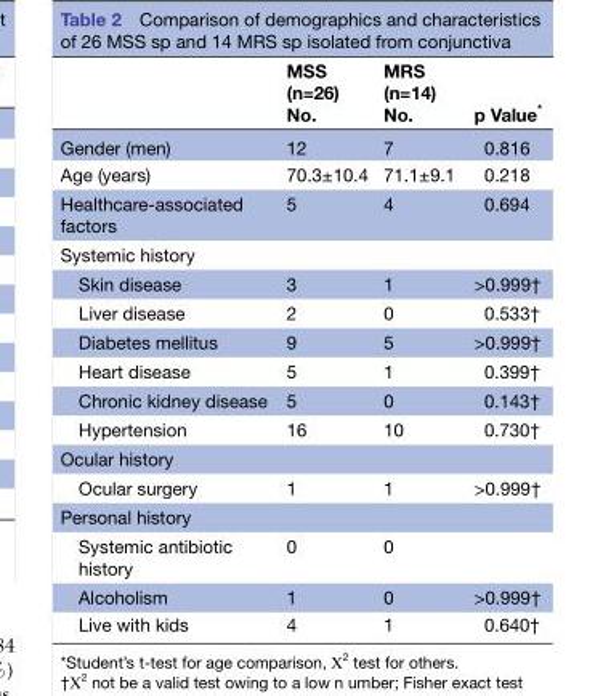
<table><thead><tr><td></td><td>MSS (n=26) No.</td><td>MRS (n=14) No.</td><td>p Value*</td></tr></thead><tbody><tr><td>Gender (men)</td><td>12</td><td>7</td><td>0.816</td></tr><tr><td>Age (years)</td><td>70.3±10.4</td><td>71.1±9.1</td><td>0.218</td></tr><tr><td>Healthcare-associated factors</td><td>5</td><td>4</td><td>0.694</td></tr><tr><td colspan="4">Systemic history</td></tr><tr><td>Skin disease</td><td>3</td><td>1</td><td>&gt;0.999†</td></tr><tr><td>Liver disease</td><td>2</td><td>0</td><td>0.533†</td></tr><tr><td>Diabetes mellitus</td><td>9</td><td>5</td><td>&gt;0.999†</td></tr><tr><td>Heart disease</td><td>5</td><td>1</td><td>0.399†</td></tr><tr><td>Chronic kidney disease</td><td>5</td><td>0</td><td>0.143†</td></tr><tr><td>Hypertension</td><td>16</td><td>10</td><td>0.730†</td></tr><tr><td colspan="4">Ocular history</td></tr><tr><td>Ocular surgery</td><td>1</td><td>1</td><td>&gt;0.999†</td></tr><tr><td colspan="4">Personal history</td></tr><tr><td>Systemic antibiotic history</td><td>0</td><td>0</td><td></td></tr><tr><td>Alcoholism</td><td>1</td><td>0</td><td>&gt;0.999†</td></tr><tr><td>Live with kids</td><td>4</td><td>1</td><td>0.640†</td></tr></tbody></table>